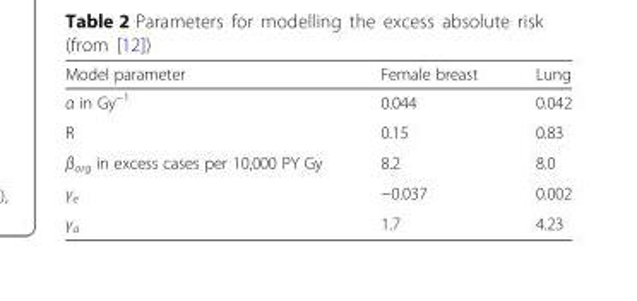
<table><thead><tr><td>Model parameter</td><td>Female breast</td><td>Lung</td></tr></thead><tbody><tr><td>α in Gy<sup>−1</sup></td><td>0.044</td><td>0.042</td></tr><tr><td>R</td><td>0.15</td><td>0.83</td></tr><tr><td>β<sub>org</sub> in excess cases per 10,000 PY Gy</td><td>8.2</td><td>8.0</td></tr><tr><td>γ<sub>e</sub></td><td>−0.037</td><td>0.002</td></tr><tr><td>γ<sub>a</sub></td><td>1.7</td><td>4.23</td></tr></tbody></table>